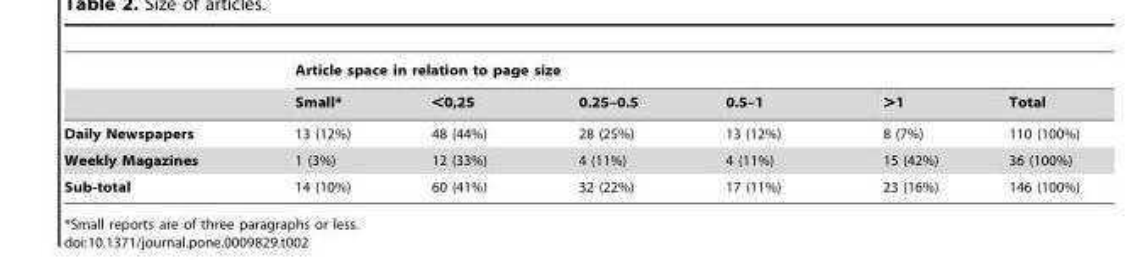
<table><thead><tr><td rowspan="2"></td><td colspan="6">Article space in relation to page size</td></tr><tr><td>Small*</td><td>&lt;0,25</td><td>0.25–0.5</td><td>0.5–1</td><td>&gt;1</td><td>Total</td></tr></thead><tbody><tr><td>Daily Newspapers</td><td>13 (12%)</td><td>48 (44%)</td><td>28 (25%)</td><td>13 (12%)</td><td>8 (7%)</td><td>110 (100%)</td></tr><tr><td>Weekly Magazines</td><td>1 (3%)</td><td>12 (33%)</td><td>4 (11%)</td><td>4 (11%)</td><td>15 (42%)</td><td>36 (100%)</td></tr><tr><td>Sub-total</td><td>14 (10%)</td><td>60 (41%)</td><td>32 (22%)</td><td>17 (11%)</td><td>23 (16%)</td><td>146 (100%)</td></tr></tbody></table>